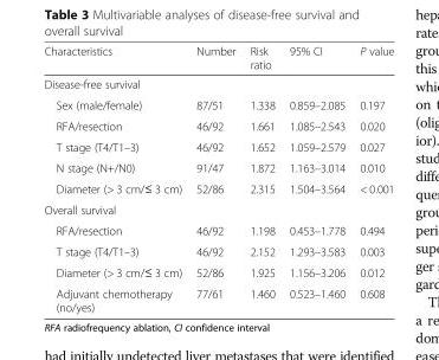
<table><thead><tr><td>Characteristics</td><td>Number</td><td>Risk ratio</td><td>95% CI</td><td>P value</td></tr></thead><tbody><tr><td colspan="5">Disease-free survival</td></tr><tr><td>Sex (male/female)</td><td>87/51</td><td>1.338</td><td>0.859–2.085</td><td>0.197</td></tr><tr><td>RFA/resection</td><td>46/92</td><td>1.661</td><td>1.085–2.543</td><td>0.020</td></tr><tr><td>T stage (T4/T1–3)</td><td>46/92</td><td>1.652</td><td>1.059–2.579</td><td>0.027</td></tr><tr><td>N stage (N+/N0)</td><td>91/47</td><td>1.872</td><td>1.163–3.014</td><td>0.010</td></tr><tr><td>Diameter (&gt; 3 cm/≤ 3 cm)</td><td>52/86</td><td>2.315</td><td>1.504–3.564</td><td>&lt; 0.001</td></tr><tr><td colspan="5">Overall survival</td></tr><tr><td>RFA/resection</td><td>46/92</td><td>1.198</td><td>0.453–1.778</td><td>0.494</td></tr><tr><td>T stage (T4/T1–3)</td><td>46/92</td><td>2.152</td><td>1.293–3.583</td><td>0.003</td></tr><tr><td>Diameter (&gt; 3 cm/≤ 3 cm)</td><td>52/86</td><td>1.925</td><td>1.156–3.206</td><td>0.012</td></tr><tr><td>Adjuvant chemotherapy (no/yes)</td><td>77/61</td><td>1.460</td><td>0.523–1.460</td><td>0.608</td></tr></tbody></table>